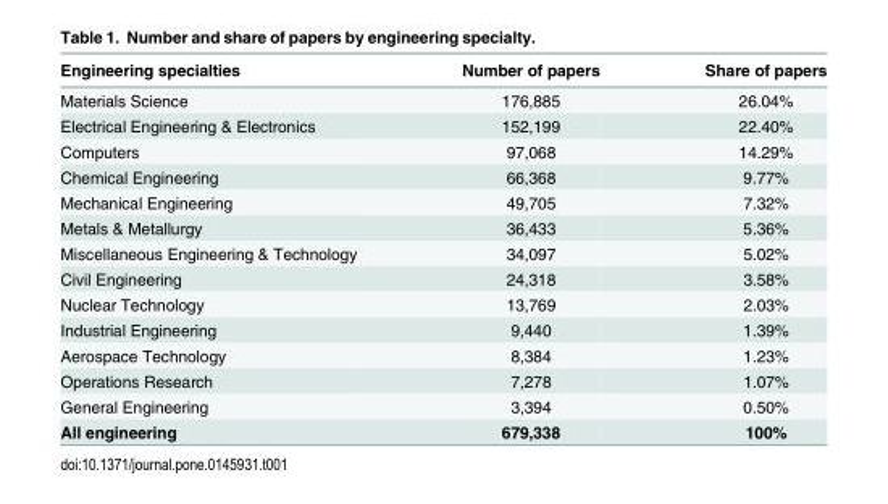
<table><thead><tr><td>Engineering specialties</td><td>Number of papers</td><td>Share of papers</td></tr></thead><tbody><tr><td>Materials Science</td><td>176,885</td><td>26.04%</td></tr><tr><td>Electrical Engineering &amp; Electronics</td><td>152,199</td><td>22.40%</td></tr><tr><td>Computers</td><td>97,068</td><td>14.29%</td></tr><tr><td>Chemical Engineering</td><td>66,368</td><td>9.77%</td></tr><tr><td>Mechanical Engineering</td><td>49,705</td><td>7.32%</td></tr><tr><td>Metals &amp; Metallurgy</td><td>36,433</td><td>5.36%</td></tr><tr><td>Miscellaneous Engineering &amp; Technology</td><td>34,097</td><td>5.02%</td></tr><tr><td>Civil Engineering</td><td>24,318</td><td>3.58%</td></tr><tr><td>Nuclear Technology</td><td>13,769</td><td>2.03%</td></tr><tr><td>Industrial Engineering</td><td>9,440</td><td>1.39%</td></tr><tr><td>Aerospace Technology</td><td>8,384</td><td>1.23%</td></tr><tr><td>Operations Research</td><td>7,278</td><td>1.07%</td></tr><tr><td>General Engineering</td><td>3,394</td><td>0.50%</td></tr><tr><td>All engineering</td><td>679,338</td><td>100%</td></tr></tbody></table>